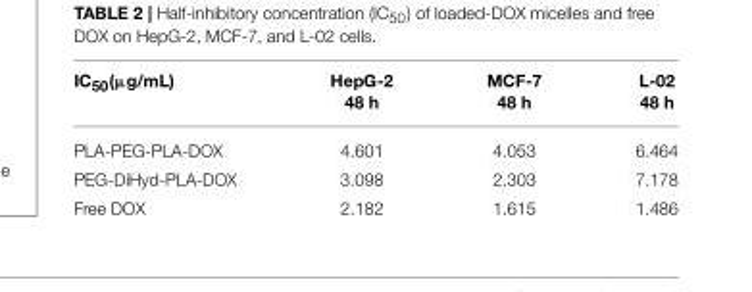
<table><thead><tr><td rowspan="2">IC<sub>50</sub>(µg/mL)</td><td rowspan="2">HepG-2 48 h</td><td rowspan="2">MCF-7 48 h</td><td rowspan="2">L-02 48 h</td></tr><tr></tr></thead><tbody><tr><td>PLA-PEG-PLA-DOX</td><td>4.601</td><td>4.053</td><td>6.464</td></tr><tr><td>PEG-DiHyd-PLA-DOX</td><td>3.098</td><td>2.303</td><td>7.178</td></tr><tr><td>Free DOX</td><td>2.182</td><td>1.615</td><td>1.486</td></tr></tbody></table>